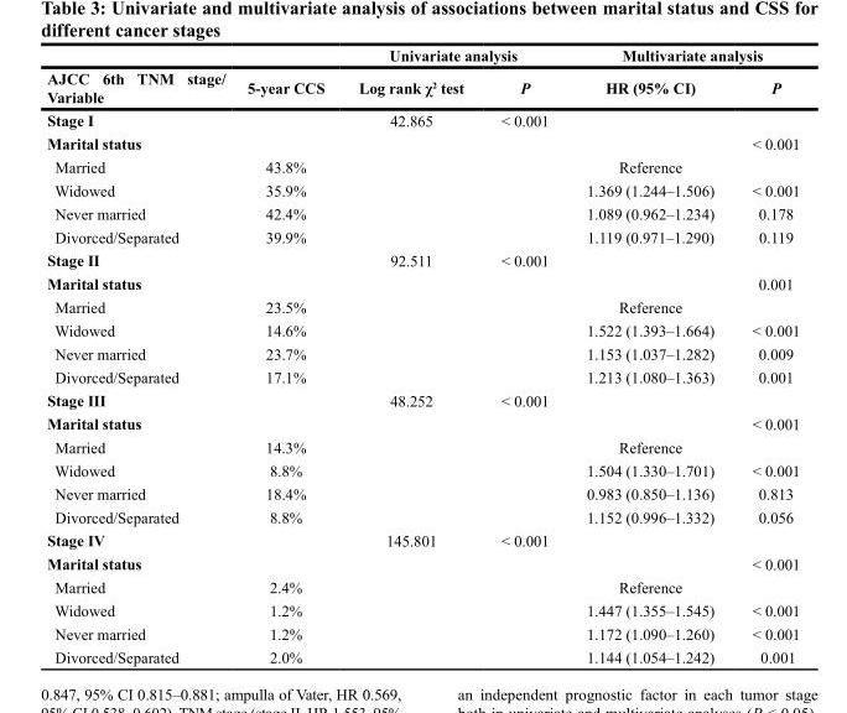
<table><thead><tr><td rowspan="2">AJCC 6th TNM stage/ Variable</td><td rowspan="2">5-year CCS</td><td colspan="2">Univariate analysis</td><td colspan="2">Multivariate analysis</td></tr><tr><td>Log rank χ<sup>2</sup> test</td><td>P</td><td>HR (95% CI)</td><td>P</td></tr></thead><tbody><tr><td>Stage I</td><td></td><td>42.865</td><td>&lt; 0.001</td><td></td><td></td></tr><tr><td>Marital status</td><td></td><td></td><td></td><td></td><td>&lt; 0.001</td></tr><tr><td>Married</td><td>43.8%</td><td></td><td></td><td>Reference</td><td></td></tr><tr><td>Widowed</td><td>35.9%</td><td></td><td></td><td>1.369 (1.244–1.506)</td><td>&lt; 0.001</td></tr><tr><td>Never married</td><td>42.4%</td><td></td><td></td><td>1.089 (0.962–1.234)</td><td>0.178</td></tr><tr><td>Divorced/Separated</td><td>39.9%</td><td></td><td></td><td>1.119 (0.971–1.290)</td><td>0.119</td></tr><tr><td>Stage II</td><td></td><td>92.511</td><td>&lt; 0.001</td><td></td><td></td></tr><tr><td>Marital status</td><td></td><td></td><td></td><td></td><td>0.001</td></tr><tr><td>Married</td><td>23.5%</td><td></td><td></td><td>Reference</td><td></td></tr><tr><td>Widowed</td><td>14.6%</td><td></td><td></td><td>1.522 (1.393–1.664)</td><td>&lt; 0.001</td></tr><tr><td>Never married</td><td>23.7%</td><td></td><td></td><td>1.153 (1.037–1.282)</td><td>0.009</td></tr><tr><td>Divorced/Separated</td><td>17.1%</td><td></td><td></td><td>1.213 (1.080–1.363)</td><td>0.001</td></tr><tr><td>Stage III</td><td></td><td>48.252</td><td>&lt; 0.001</td><td></td><td></td></tr><tr><td>Marital status</td><td></td><td></td><td></td><td></td><td>&lt; 0.001</td></tr><tr><td>Married</td><td>14.3%</td><td></td><td></td><td>Reference</td><td></td></tr><tr><td>Widowed</td><td>8.8%</td><td></td><td></td><td>1.504 (1.330–1.701)</td><td>&lt; 0.001</td></tr><tr><td>Never married</td><td>18.4%</td><td></td><td></td><td>0.983 (0.850–1.136)</td><td>0.813</td></tr><tr><td>Divorced/Separated</td><td>8.8%</td><td></td><td></td><td>1.152 (0.996–1.332)</td><td>0.056</td></tr><tr><td>Stage IV</td><td></td><td>145.801</td><td>&lt; 0.001</td><td></td><td></td></tr><tr><td>Marital status</td><td></td><td></td><td></td><td></td><td>&lt; 0.001</td></tr><tr><td>Married</td><td>2.4%</td><td></td><td></td><td>Reference</td><td></td></tr><tr><td>Widowed</td><td>1.2%</td><td></td><td></td><td>1.447 (1.355–1.545)</td><td>&lt; 0.001</td></tr><tr><td>Never married</td><td>1.2%</td><td></td><td></td><td>1.172 (1.090–1.260)</td><td>&lt; 0.001</td></tr><tr><td>Divorced/Separated</td><td>2.0%</td><td></td><td></td><td>1.144 (1.054–1.242)</td><td>0.001</td></tr></tbody></table>